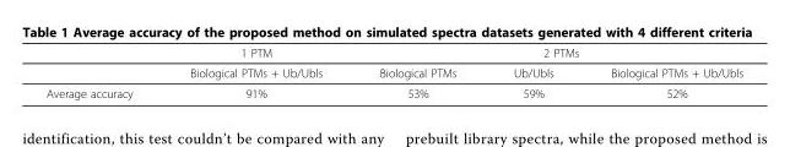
<table><thead><tr><td rowspan="2"></td><td rowspan="2">1 PTM Biological PTMs + Ub/Ubls</td><td colspan="3">2 PTMs</td></tr><tr><td>Biological PTMs</td><td>Ub/Ubls</td><td>Biological PTMs + Ub/Ubls</td></tr></thead><tbody><tr><td>Average accuracy</td><td>91%</td><td>53%</td><td>59%</td><td>52%</td></tr></tbody></table>